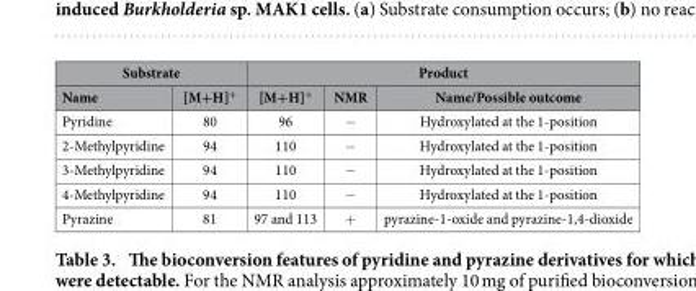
<table><thead><tr><td colspan="2">Substrate</td><td colspan="3">Product</td></tr><tr><td>Name</td><td>[M+H]<sup>+</sup></td><td>[M+H]<sup>+</sup></td><td>NMR</td><td>Name/Possible outcome</td></tr></thead><tbody><tr><td>Pyridine</td><td>80</td><td>96</td><td>−</td><td>Hydroxylated at the 1-position</td></tr><tr><td>2-Methylpyridine</td><td>94</td><td>110</td><td>−</td><td>Hydroxylated at the 1-position</td></tr><tr><td>3-Methylpyridine</td><td>94</td><td>110</td><td>−</td><td>Hydroxylated at the 1-position</td></tr><tr><td>4-Methylpyridine</td><td>94</td><td>110</td><td>−</td><td>Hydroxylated at the 1-position</td></tr><tr><td>Pyrazine</td><td>81</td><td>97 and 113</td><td>+</td><td>pyrazine-1-oxide and pyrazine-1,4-dioxide</td></tr></tbody></table>